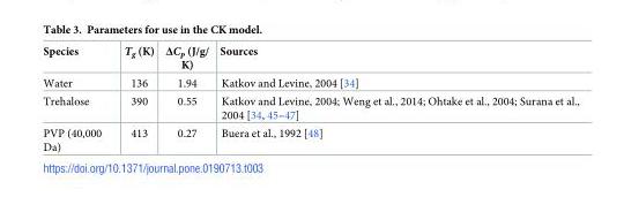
<table><thead><tr><td>Species</td><td>T<sub>g</sub> (K)</td><td>ΔC<sub>p</sub> (J/g/ K)</td><td>Sources</td></tr></thead><tbody><tr><td>Water</td><td>136</td><td>1.94</td><td>Katkov and Levine, 2004 [34]</td></tr><tr><td>Trehalose</td><td>390</td><td>0.55</td><td>Katkov and Levine, 2004; Weng et al., 2014; Ohtake et al., 2004; Surana et al., 2004 [34, 45–47]</td></tr><tr><td>PVP (40,000 Da)</td><td>413</td><td>0.27</td><td>Buera et al., 1992 [48]</td></tr></tbody></table>